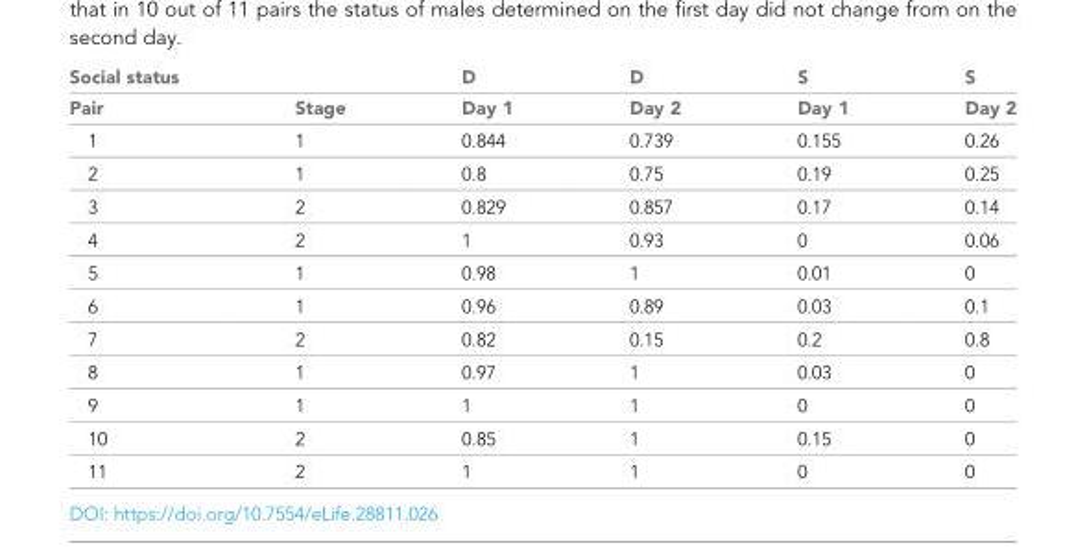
<table><thead><tr><td rowspan="2">Social status Pair</td><td rowspan="2">Stage</td><td rowspan="2">D Day 1</td><td rowspan="2">D Day 2</td><td rowspan="2">S Day 1</td><td rowspan="2">S Day 2</td></tr><tr></tr></thead><tbody><tr><td>1</td><td>1</td><td>0.844</td><td>0.739</td><td>0.155</td><td>0.26</td></tr><tr><td>2</td><td>1</td><td>0.8</td><td>0.75</td><td>0.19</td><td>0.25</td></tr><tr><td>3</td><td>2</td><td>0.829</td><td>0.857</td><td>0.17</td><td>0.14</td></tr><tr><td>4</td><td>2</td><td>1</td><td>0.93</td><td>0</td><td>0.06</td></tr><tr><td>5</td><td>1</td><td>0.98</td><td>1</td><td>0.01</td><td>0</td></tr><tr><td>6</td><td>1</td><td>0.96</td><td>0.89</td><td>0.03</td><td>0.1</td></tr><tr><td>7</td><td>2</td><td>0.82</td><td>0.15</td><td>0.2</td><td>0.8</td></tr><tr><td>8</td><td>1</td><td>0.97</td><td>1</td><td>0.03</td><td>0</td></tr><tr><td>9</td><td>1</td><td>1</td><td>1</td><td>0</td><td>0</td></tr><tr><td>10</td><td>2</td><td>0.85</td><td>1</td><td>0.15</td><td>0</td></tr><tr><td>11</td><td>2</td><td>1</td><td>1</td><td>0</td><td>0</td></tr></tbody></table>